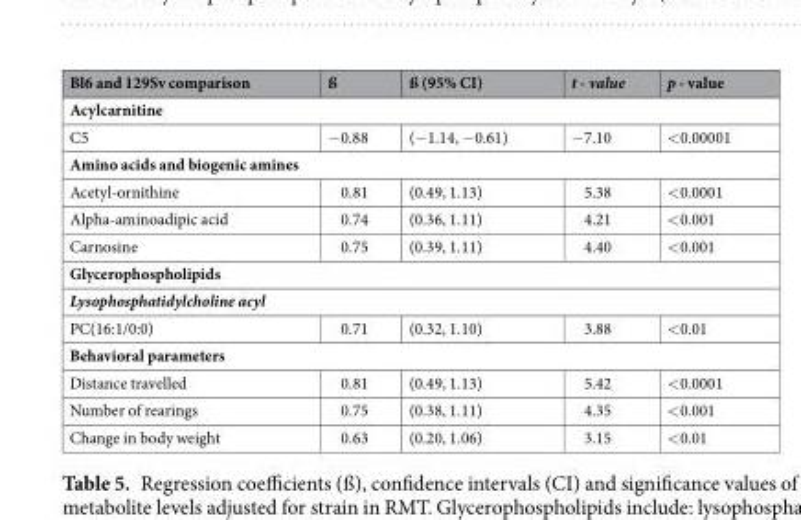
<table><thead><tr><td>Bl6 and 129Sv comparison</td><td>ß</td><td>ß (95% CI)</td><td>t - value</td><td>p - value</td></tr></thead><tbody><tr><td colspan="5">Acylcarnitine</td></tr><tr><td>C5</td><td>−0.88</td><td>(−1.14, −0.61)</td><td>−7.10</td><td>&lt;0.00001</td></tr><tr><td colspan="5">Amino acids and biogenic amines</td></tr><tr><td>Acetyl-ornithine</td><td>0.81</td><td>(0.49, 1.13)</td><td>5.38</td><td>&lt;0.0001</td></tr><tr><td>Alpha-aminoadipic acid</td><td>0.74</td><td>(0.36, 1.11)</td><td>4.21</td><td>&lt;0.001</td></tr><tr><td>Carnosine</td><td>0.75</td><td>(0.39, 1.11)</td><td>4.40</td><td>&lt;0.001</td></tr><tr><td colspan="5">Glycerophospholipids</td></tr><tr><td colspan="5">Lysophosphatidylcholine acyl</td></tr><tr><td>PC(16:1/0:0)</td><td>0.71</td><td>(0.32, 1.10)</td><td>3.88</td><td>&lt;0.01</td></tr><tr><td colspan="5">Behavioral parameters</td></tr><tr><td>Distance travelled</td><td>0.81</td><td>(0.49, 1.13)</td><td>5.42</td><td>&lt;0.0001</td></tr><tr><td>Number of rearings</td><td>0.75</td><td>(0.38, 1.11)</td><td>4.35</td><td>&lt;0.001</td></tr><tr><td>Change in body weight</td><td>0.63</td><td>(0.20, 1.06)</td><td>3.15</td><td>&lt;0.01</td></tr></tbody></table>